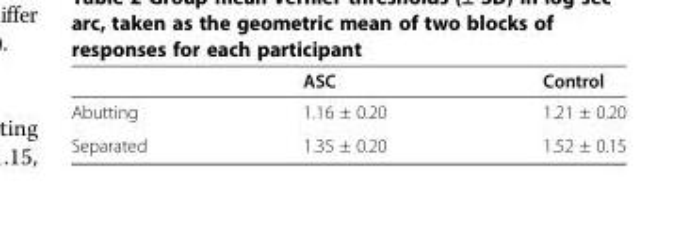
<table><thead><tr><td></td><td>ASC</td><td>Control</td></tr></thead><tbody><tr><td>Abutting</td><td>1.16 ± 0.20</td><td>1.21 ± 0.20</td></tr><tr><td>Separated</td><td>1.35 ± 0.20</td><td>1.52 ± 0.15</td></tr></tbody></table>